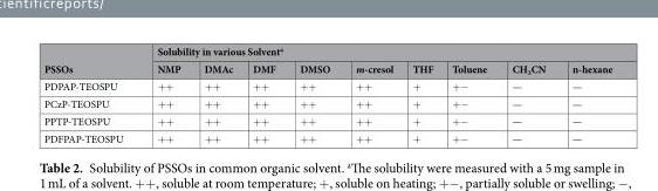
<table><thead><tr><td rowspan="2">PSSOs</td><td colspan="9">Solubility in various Solvent<sup>a</sup></td></tr><tr><td>NMP</td><td>DMAc</td><td>DMF</td><td>DMSO</td><td>m-cresol</td><td>THF</td><td>Toluene</td><td>CH<sub>3</sub>CN</td><td>n-hexane</td></tr></thead><tbody><tr><td>PDPAP-TEOSPU</td><td>++</td><td>++</td><td>++</td><td>++</td><td>++</td><td>+</td><td>+−</td><td>—</td><td>—</td></tr><tr><td>PCzP-TEOSPU</td><td>++</td><td>++</td><td>++</td><td>++</td><td>++</td><td>+</td><td>+−</td><td>—</td><td>—</td></tr><tr><td>PPTP-TEOSPU</td><td>++</td><td>++</td><td>++</td><td>++</td><td>++</td><td>+</td><td>+−</td><td>—</td><td>—</td></tr><tr><td>PDFPAP-TEOSPU</td><td>++</td><td>++</td><td>++</td><td>++</td><td>++</td><td>+</td><td>+−</td><td>—</td><td>—</td></tr></tbody></table>